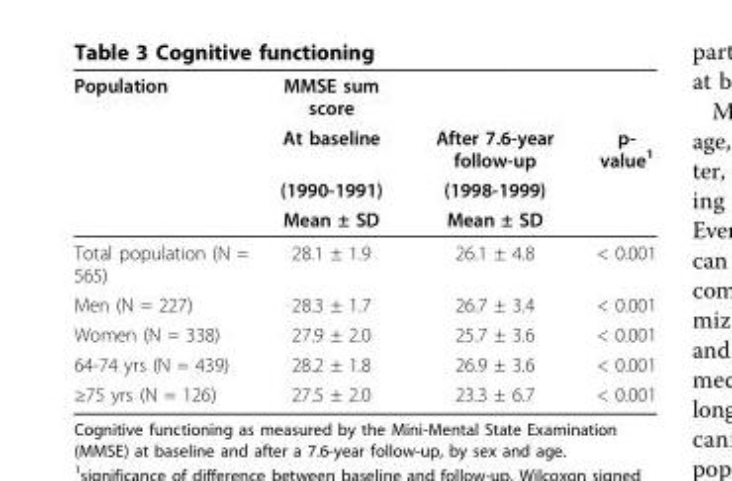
<table><thead><tr><td rowspan="4">Population</td><td rowspan="4">MMSE sum score At baseline (1990-1991) Mean ± SD</td><td rowspan="4">After 7.6-year follow-up (1998-1999) Mean ± SD</td><td rowspan="4">p- value<sup>1</sup></td></tr><tr></tr><tr></tr><tr></tr></thead><tbody><tr><td>Total population (N = 565)</td><td>28.1 ± 1.9</td><td>26.1 ± 4.8</td><td>&lt; 0.001</td></tr><tr><td>Men (N = 227)</td><td>28.3 ± 1.7</td><td>26.7 ± 3.4</td><td>&lt; 0.001</td></tr><tr><td>Women (N = 338)</td><td>27.9 ± 2.0</td><td>25.7 ± 3.6</td><td>&lt; 0.001</td></tr><tr><td>64-74 yrs (N = 439)</td><td>28.2 ± 1.8</td><td>26.9 ± 3.6</td><td>&lt; 0.001</td></tr><tr><td>≥75 yrs (N = 126)</td><td>27.5 ± 2.0</td><td>23.3 ± 6.7</td><td>&lt; 0.001</td></tr></tbody></table>